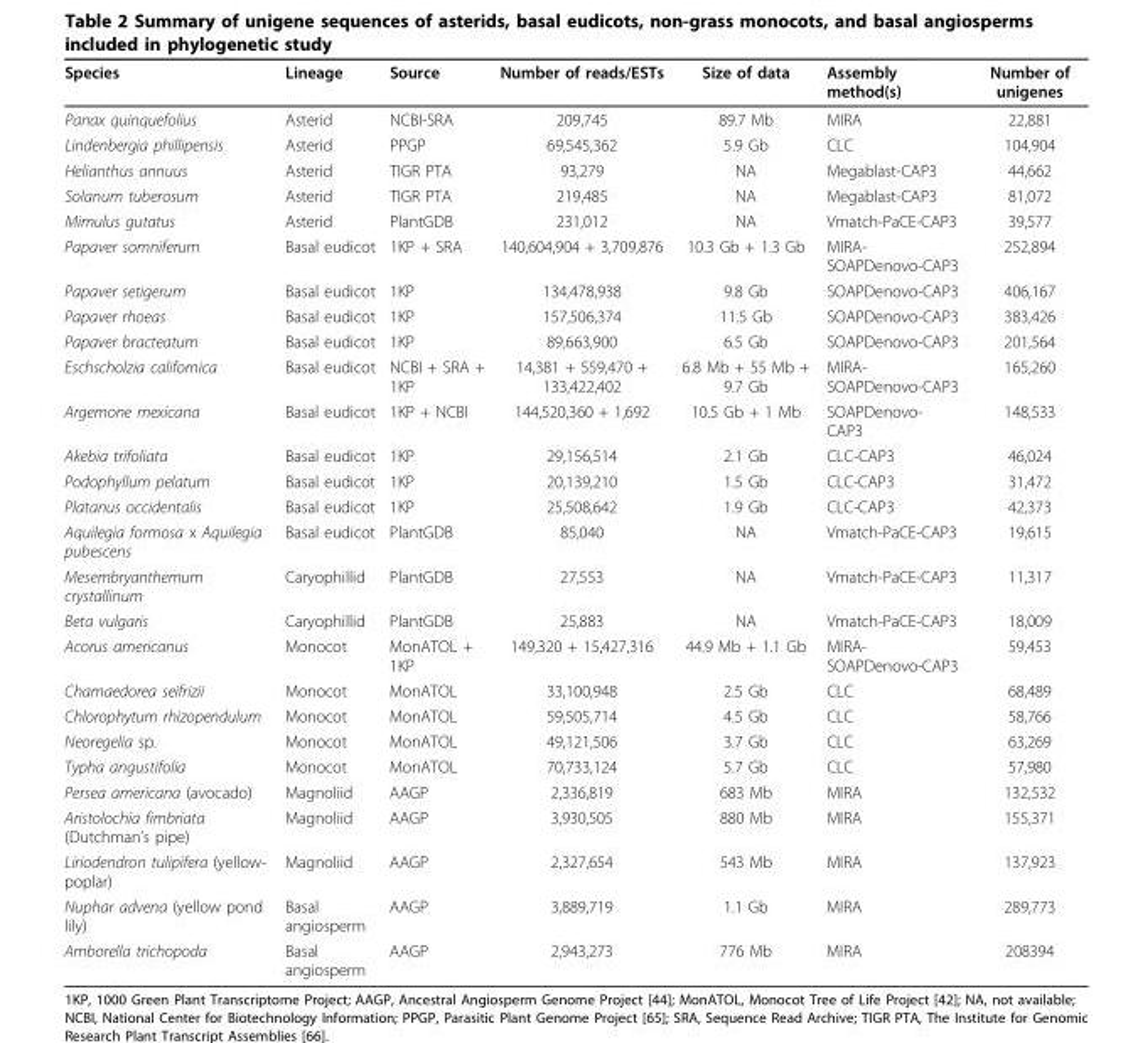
<table><thead><tr><td>Species</td><td>Lineage</td><td>Source</td><td>Number of reads/ESTs</td><td>Size of data</td><td>Assembly method(s)</td><td>Number of unigenes</td></tr></thead><tbody><tr><td>Panax quinquefolius</td><td>Asterid</td><td>NCBI-SRA</td><td>209,745</td><td>89.7 Mb</td><td>MIRA</td><td>22,881</td></tr><tr><td>Lindenbergia phillipensis</td><td>Asterid</td><td>PPGP</td><td>69,545,362</td><td>5.9 Gb</td><td>CLC</td><td>104,904</td></tr><tr><td>Helianthus annuus</td><td>Asterid</td><td>TIGR PTA</td><td>93,279</td><td>NA</td><td>Megablast-CAP3</td><td>44,662</td></tr><tr><td>Solanum tuberosum</td><td>Asterid</td><td>TIGR PTA</td><td>219,485</td><td>NA</td><td>Megablast-CAP3</td><td>81,072</td></tr><tr><td>Mimulus gutatus</td><td>Asterid</td><td>PlantGDB</td><td>231,012</td><td>NA</td><td>Vmatch-PaCE-CAP3</td><td>39,577</td></tr><tr><td>Papaver somniferum</td><td>Basal eudicot</td><td>1KP + SRA</td><td>140,604,904 + 3,709,876</td><td>10.3 Gb + 1.3 Gb</td><td>MIRA- SOAPDenovo-CAP3</td><td>252,894</td></tr><tr><td>Papaver setigerum</td><td>Basal eudicot</td><td>1KP</td><td>134,478,938</td><td>9.8 Gb</td><td>SOAPDenovo-CAP3</td><td>406,167</td></tr><tr><td>Papaver rhoeas</td><td>Basal eudicot</td><td>1KP</td><td>157,506,374</td><td>11.5 Gb</td><td>SOAPDenovo-CAP3</td><td>383,426</td></tr><tr><td>Papaver bracteatum</td><td>Basal eudicot</td><td>1KP</td><td>89,663,900</td><td>6.5 Gb</td><td>SOAPDenovo-CAP3</td><td>201,564</td></tr><tr><td>Eschscholzia californica</td><td>Basal eudicot</td><td>NCBI + SRA + 1KP</td><td>14,381 + 559,470 + 133,422,402</td><td>6.8 Mb + 55 Mb + 9.7 Gb</td><td>MIRA- SOAPDenovo-CAP3</td><td>165,260</td></tr><tr><td>Argemone mexicana</td><td>Basal eudicot</td><td>1KP + NCBI</td><td>144,520,360 + 1,692</td><td>10.5 Gb + 1 Mb</td><td>SOAPDenovo- CAP3</td><td>148,533</td></tr><tr><td>Akebia trifoliata</td><td>Basal eudicot</td><td>1KP</td><td>29,156,514</td><td>2.1 Gb</td><td>CLC-CAP3</td><td>46,024</td></tr><tr><td>Podophyllum pelatum</td><td>Basal eudicot</td><td>1KP</td><td>20,139,210</td><td>1.5 Gb</td><td>CLC-CAP3</td><td>31,472</td></tr><tr><td>Platanus occidentalis</td><td>Basal eudicot</td><td>1KP</td><td>25,508,642</td><td>1.9 Gb</td><td>CLC-CAP3</td><td>42,373</td></tr><tr><td>Aquilegia formosa x Aquilegia pubescens</td><td>Basal eudicot</td><td>PlantGDB</td><td>85,040</td><td>NA</td><td>Vmatch-PaCE-CAP3</td><td>19,615</td></tr><tr><td>Mesembryanthemum crystallinum</td><td>Caryophillid</td><td>PlantGDB</td><td>27,553</td><td>NA</td><td>Vmatch-PaCE-CAP3</td><td>11,317</td></tr><tr><td>Beta vulgaris</td><td>Caryophillid</td><td>PlantGDB</td><td>25,883</td><td>NA</td><td>Vmatch-PaCE-CAP3</td><td>18,009</td></tr><tr><td>Acorus americanus</td><td>Monocot</td><td>MonATOL + 1KP</td><td>149,320 + 15,427,316</td><td>44.9 Mb + 1.1 Gb</td><td>MIRA- SOAPDenovo-CAP3</td><td>59,453</td></tr><tr><td>Chamaedorea seifrizii</td><td>Monocot</td><td>MonATOL</td><td>33,100,948</td><td>2.5 Gb</td><td>CLC</td><td>68,489</td></tr><tr><td>Chlorophytum rhizopendulum</td><td>Monocot</td><td>MonATOL</td><td>59,505,714</td><td>4.5 Gb</td><td>CLC</td><td>58,766</td></tr><tr><td>Neoregelia sp.</td><td>Monocot</td><td>MonATOL</td><td>49,121,506</td><td>3.7 Gb</td><td>CLC</td><td>63,269</td></tr><tr><td>Typha angustifolia</td><td>Monocot</td><td>MonATOL</td><td>70,733,124</td><td>5.7 Gb</td><td>CLC</td><td>57,980</td></tr><tr><td>Persea americana (avocado)</td><td>Magnoliid</td><td>AAGP</td><td>2,336,819</td><td>683 Mb</td><td>MIRA</td><td>132,532</td></tr><tr><td>Aristolochia fimbriata (Dutchman’s pipe)</td><td>Magnoliid</td><td>AAGP</td><td>3,930,505</td><td>880 Mb</td><td>MIRA</td><td>155,371</td></tr><tr><td>Liriodendron tulipifera (yellow- poplar)</td><td>Magnoliid</td><td>AAGP</td><td>2,327,654</td><td>543 Mb</td><td>MIRA</td><td>137,923</td></tr><tr><td>Nuphar advena (yellow pond lily)</td><td>Basal angiosperm</td><td>AAGP</td><td>3,889,719</td><td>1.1 Gb</td><td>MIRA</td><td>289,773</td></tr><tr><td>Amborella trichopoda</td><td>Basal angiosperm</td><td>AAGP</td><td>2,943,273</td><td>776 Mb</td><td>MIRA</td><td>208394</td></tr></tbody></table>